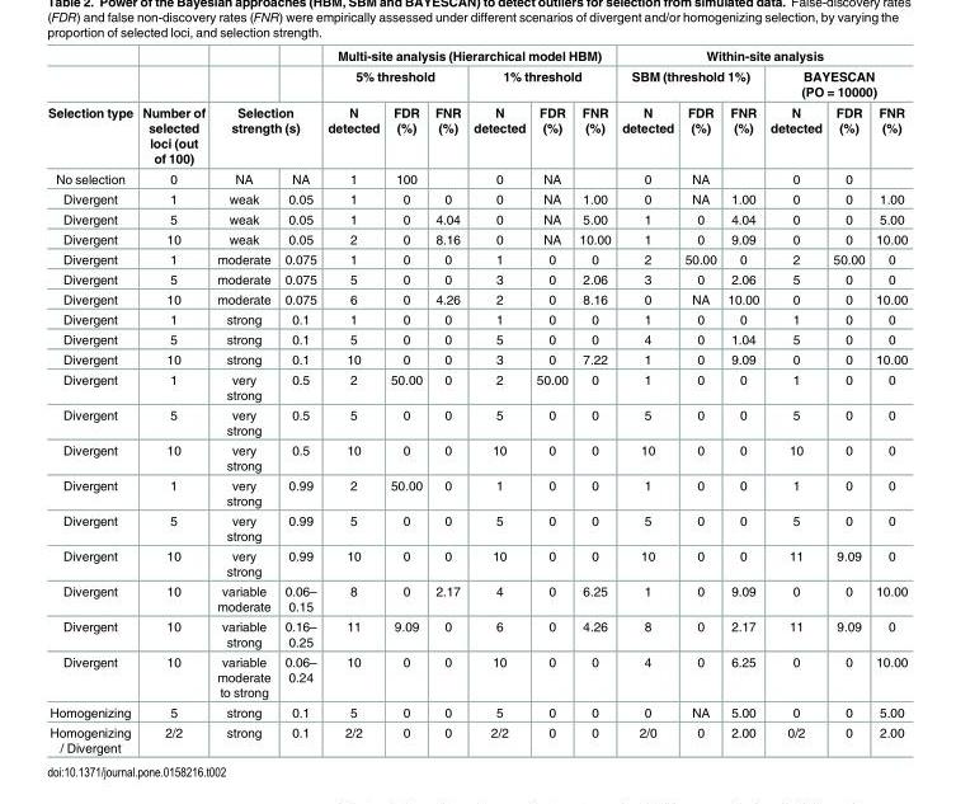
<table><thead><tr><td rowspan="3">Selection type</td><td rowspan="3">Number of selected loci (out of 100)</td><td rowspan="2"></td><td rowspan="2"></td><td colspan="6">Multi-site analysis (Hierarchical model HBM)</td><td colspan="6">Within-site analysis</td></tr><tr><td colspan="3">5% threshold</td><td colspan="3">1% threshold</td><td colspan="3">SBM (threshold 1%)</td><td colspan="3">BAYESCAN (PO = 10000)</td></tr><tr><td colspan="2">Selection strength (s)</td><td>N detected</td><td>FDR (%)</td><td>FNR (%)</td><td>N detected</td><td>FDR (%)</td><td>FNR (%)</td><td>N detected</td><td>FDR (%)</td><td>FNR (%)</td><td>N detected</td><td>FDR (%)</td><td>FNR (%)</td></tr></thead><tbody><tr><td>No selection</td><td>0</td><td>NA</td><td>NA</td><td>1</td><td>100</td><td></td><td>0</td><td>NA</td><td></td><td>0</td><td>NA</td><td></td><td>0</td><td>0</td><td></td></tr><tr><td>Divergent</td><td>1</td><td>weak</td><td>0.05</td><td>1</td><td>0</td><td>0</td><td>0</td><td>NA</td><td>1.00</td><td>0</td><td>NA</td><td>1.00</td><td>0</td><td>0</td><td>1.00</td></tr><tr><td>Divergent</td><td>5</td><td>weak</td><td>0.05</td><td>1</td><td>0</td><td>4.04</td><td>0</td><td>NA</td><td>5.00</td><td>1</td><td>0</td><td>4.04</td><td>0</td><td>0</td><td>5.00</td></tr><tr><td>Divergent</td><td>10</td><td>weak</td><td>0.05</td><td>2</td><td>0</td><td>8.16</td><td>0</td><td>NA</td><td>10.00</td><td>1</td><td>0</td><td>9.09</td><td>0</td><td>0</td><td>10.00</td></tr><tr><td>Divergent</td><td>1</td><td>moderate</td><td>0.075</td><td>1</td><td>0</td><td>0</td><td>1</td><td>0</td><td>0</td><td>2</td><td>50.00</td><td>0</td><td>2</td><td>50.00</td><td>0</td></tr><tr><td>Divergent</td><td>5</td><td>moderate</td><td>0.075</td><td>5</td><td>0</td><td>0</td><td>3</td><td>0</td><td>2.06</td><td>3</td><td>0</td><td>2.06</td><td>5</td><td>0</td><td>0</td></tr><tr><td>Divergent</td><td>10</td><td>moderate</td><td>0.075</td><td>6</td><td>0</td><td>4.26</td><td>2</td><td>0</td><td>8.16</td><td>0</td><td>NA</td><td>10.00</td><td>0</td><td>0</td><td>10.00</td></tr><tr><td>Divergent</td><td>1</td><td>strong</td><td>0.1</td><td>1</td><td>0</td><td>0</td><td>1</td><td>0</td><td>0</td><td>1</td><td>0</td><td>0</td><td>1</td><td>0</td><td>0</td></tr><tr><td>Divergent</td><td>5</td><td>strong</td><td>0.1</td><td>5</td><td>0</td><td>0</td><td>5</td><td>0</td><td>0</td><td>4</td><td>0</td><td>1.04</td><td>5</td><td>0</td><td>0</td></tr><tr><td>Divergent</td><td>10</td><td>strong</td><td>0.1</td><td>10</td><td>0</td><td>0</td><td>3</td><td>0</td><td>7.22</td><td>1</td><td>0</td><td>9.09</td><td>0</td><td>0</td><td>10.00</td></tr><tr><td>Divergent</td><td>1</td><td>very strong</td><td>0.5</td><td>2</td><td>50.00</td><td>0</td><td>2</td><td>50.00</td><td>0</td><td>1</td><td>0</td><td>0</td><td>1</td><td>0</td><td>0</td></tr><tr><td>Divergent</td><td>5</td><td>very strong</td><td>0.5</td><td>5</td><td>0</td><td>0</td><td>5</td><td>0</td><td>0</td><td>5</td><td>0</td><td>0</td><td>5</td><td>0</td><td>0</td></tr><tr><td>Divergent</td><td>10</td><td>very strong</td><td>0.5</td><td>10</td><td>0</td><td>0</td><td>10</td><td>0</td><td>0</td><td>10</td><td>0</td><td>0</td><td>10</td><td>0</td><td>0</td></tr><tr><td>Divergent</td><td>1</td><td>very strong</td><td>0.99</td><td>2</td><td>50.00</td><td>0</td><td>1</td><td>0</td><td>0</td><td>1</td><td>0</td><td>0</td><td>1</td><td>0</td><td>0</td></tr><tr><td>Divergent</td><td>5</td><td>very strong</td><td>0.99</td><td>5</td><td>0</td><td>0</td><td>5</td><td>0</td><td>0</td><td>5</td><td>0</td><td>0</td><td>5</td><td>0</td><td>0</td></tr><tr><td>Divergent</td><td>10</td><td>very strong</td><td>0.99</td><td>10</td><td>0</td><td>0</td><td>10</td><td>0</td><td>0</td><td>10</td><td>0</td><td>0</td><td>11</td><td>9.09</td><td>0</td></tr><tr><td>Divergent</td><td>10</td><td>variable moderate</td><td>0.06– 0.15</td><td>8</td><td>0</td><td>2.17</td><td>4</td><td>0</td><td>6.25</td><td>1</td><td>0</td><td>9.09</td><td>0</td><td>0</td><td>10.00</td></tr><tr><td>Divergent</td><td>10</td><td>variable strong</td><td>0.16– 0.25</td><td>11</td><td>9.09</td><td>0</td><td>6</td><td>0</td><td>4.26</td><td>8</td><td>0</td><td>2.17</td><td>11</td><td>9.09</td><td>0</td></tr><tr><td>Divergent</td><td>10</td><td>variable moderate to strong</td><td>0.06– 0.24</td><td>10</td><td>0</td><td>0</td><td>10</td><td>0</td><td>0</td><td>4</td><td>0</td><td>6.25</td><td>0</td><td>0</td><td>10.00</td></tr><tr><td>Homogenizing</td><td>5</td><td>strong</td><td>0.1</td><td>5</td><td>0</td><td>0</td><td>5</td><td>0</td><td>0</td><td>0</td><td>NA</td><td>5.00</td><td>0</td><td>0</td><td>5.00</td></tr><tr><td>Homogenizing / Divergent</td><td>2/2</td><td>strong</td><td>0.1</td><td>2/2</td><td>0</td><td>0</td><td>2/2</td><td>0</td><td>0</td><td>2/0</td><td>0</td><td>2.00</td><td>0/2</td><td>0</td><td>2.00</td></tr></tbody></table>